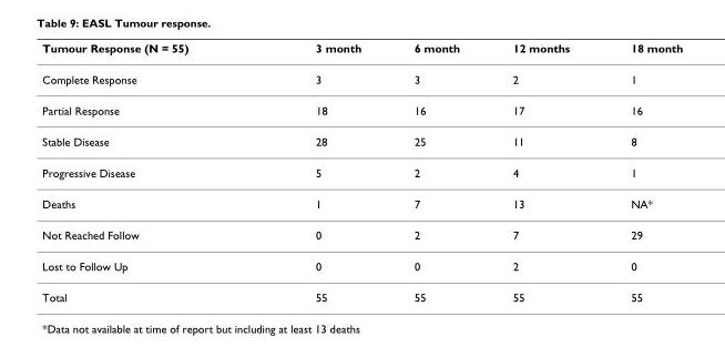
<table><thead><tr><td>Tumour Response (N = 55)</td><td>3 month</td><td>6 month</td><td>12 months</td><td>18 month</td></tr></thead><tbody><tr><td>Complete Response</td><td>3</td><td>3</td><td>2</td><td>1</td></tr><tr><td>Partial Response</td><td>18</td><td>16</td><td>17</td><td>16</td></tr><tr><td>Stable Disease</td><td>28</td><td>25</td><td>11</td><td>8</td></tr><tr><td>Progressive Disease</td><td>5</td><td>2</td><td>4</td><td>1</td></tr><tr><td>Deaths</td><td>1</td><td>7</td><td>13</td><td>NA*</td></tr><tr><td>Not Reached Follow</td><td>0</td><td>2</td><td>7</td><td>29</td></tr><tr><td>Lost to Follow Up</td><td>0</td><td>0</td><td>2</td><td>0</td></tr><tr><td>Total</td><td>55</td><td>55</td><td>55</td><td>55</td></tr></tbody></table>